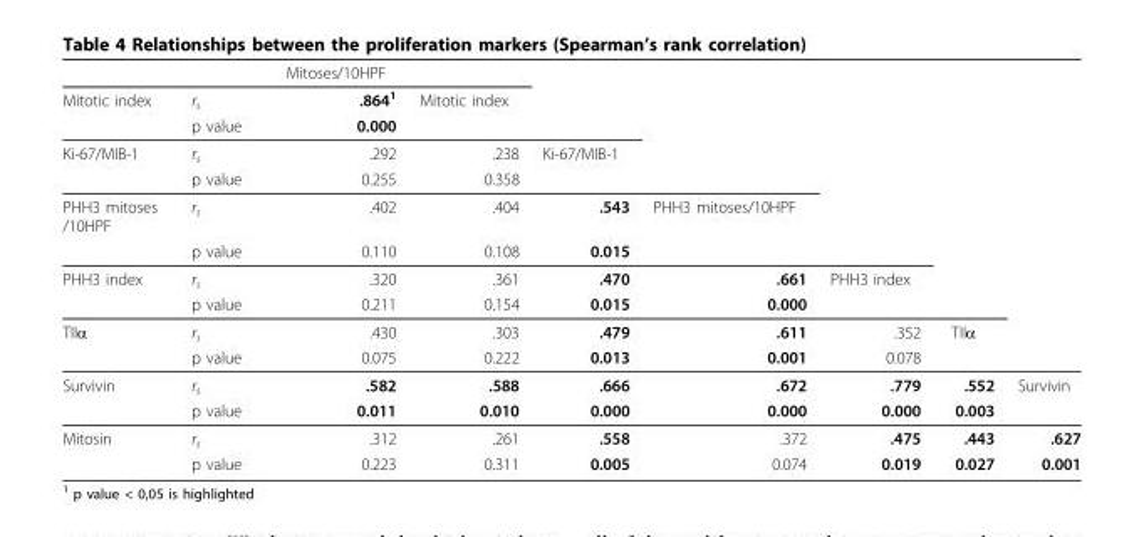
<table><thead><tr><td rowspan="11">Mitotic index Ki-67/MIB-1 PHH3 mitoses /10HPF PHH3 index TIIα</td><td rowspan="11">rs p value rs p value rs p value rs p value rs p value</td><td rowspan="11">Mitoses/10HPF .8641 0.000 .292 0.255 .402 0.110 .320 0.211 .430 0.075</td><td rowspan="11">Mitotic index .238 0.358 .404 0.108 .361 0.154 .303 0.222</td><td rowspan="11">Ki-67/MIB-1 .543 0.015 .470 0.015 .479 0.013</td><td rowspan="11">PHH3 mitoses/10HPF .661 0.000 .611 0.001</td><td rowspan="11">PHH3 index .352 0.078</td><td rowspan="11">TIIα</td><td rowspan="11"></td></tr><tr></tr><tr></tr><tr></tr><tr></tr><tr></tr><tr></tr><tr></tr><tr></tr><tr></tr><tr></tr></thead><tbody><tr><td rowspan="2">Survivin</td><td>r<sub>s</sub></td><td>.582</td><td>.588</td><td>.666</td><td>.672</td><td>.779</td><td>.552</td><td>Survivin</td></tr><tr><td>p value</td><td>0.011</td><td>0.010</td><td>0.000</td><td>0.000</td><td>0.000</td><td>0.003</td><td></td></tr><tr><td rowspan="2">Mitosin</td><td>r<sub>s</sub></td><td>.312</td><td>.261</td><td>.558</td><td>.372</td><td>.475</td><td>.443</td><td>.627</td></tr><tr><td>p value</td><td>0.223</td><td>0.311</td><td>0.005</td><td>0.074</td><td>0.019</td><td>0.027</td><td>0.001</td></tr></tbody></table>